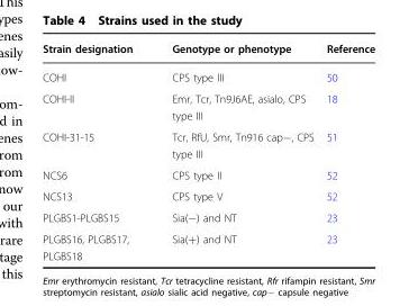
<table><thead><tr><td>Strain designation</td><td>Genotype or phenotype</td><td>Reference</td></tr></thead><tbody><tr><td>COHI</td><td>CPS type III</td><td>50</td></tr><tr><td>COHI-II</td><td>Emr, Tcr, Tn9J6AE, asialo, CPS type III</td><td>18</td></tr><tr><td>COHI-31-15</td><td>Tcr, RfU, Smr, Tn916 cap−, CPS type III</td><td>51</td></tr><tr><td>NCS6</td><td>CPS type II</td><td>52</td></tr><tr><td>NCS13</td><td>CPS type V</td><td>52</td></tr><tr><td>PLGBS1-PLGBS15</td><td>Sia(−) and NT</td><td>23</td></tr><tr><td>PLGBS16, PLGBS17, PLGBS18</td><td>Sia(+) and NT</td><td>23</td></tr></tbody></table>